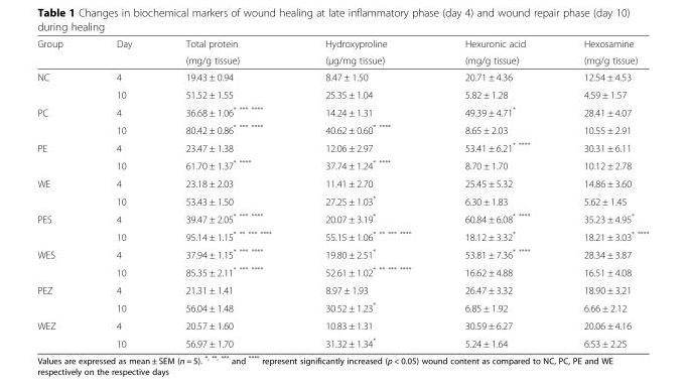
<table><thead><tr><td rowspan="2">Group</td><td rowspan="2">Day</td><td rowspan="2">Total protein (mg/g tissue)</td><td rowspan="2">Hydroxyproline (μg/mg tissue)</td><td rowspan="2">Hexuronic acid (mg/g tissue)</td><td rowspan="2">Hexosamine (mg/g tissue)</td></tr><tr></tr></thead><tbody><tr><td rowspan="2">NC</td><td>4</td><td>19.43 ± 0.94</td><td>8.47 ± 1.50</td><td>20.71 ± 4.36</td><td>12.54 ± 4.53</td></tr><tr><td>10</td><td>51.52 ± 1.55</td><td>25.35 ± 1.04</td><td>5.82 ± 1.28</td><td>4.59 ± 1.57</td></tr><tr><td rowspan="2">PC</td><td>4</td><td>36.68 ± 1.06* *** ****</td><td>14.24 ± 1.31</td><td>49.39 ± 4.71*</td><td>28.41 ± 4.07</td></tr><tr><td>10</td><td>80.42 ± 0.86* *** ****</td><td>40.62 ± 0.60* ****</td><td>8.65 ± 2.03</td><td>10.55 ± 2.91</td></tr><tr><td rowspan="2">PE</td><td>4</td><td>23.47 ± 1.38</td><td>12.06 ± 2.97</td><td>53.41 ± 6.21* ****</td><td>30.31 ± 6.11</td></tr><tr><td>10</td><td>61.70 ± 1.37* ****</td><td>37.74 ± 1.24* ****</td><td>8.70 ± 1.70</td><td>10.12 ± 2.78</td></tr><tr><td rowspan="2">WE</td><td>4</td><td>23.18 ± 2.03</td><td>11.41 ± 2.70</td><td>25.45 ± 5.32</td><td>14.86 ± 3.60</td></tr><tr><td>10</td><td>53.43 ± 1.50</td><td>27.25 ± 1.03*</td><td>6.30 ± 1.83</td><td>5.62 ± 1.45</td></tr><tr><td rowspan="2">PES</td><td>4</td><td>39.47 ± 2.05* *** ****</td><td>20.07 ± 3.19*</td><td>60.84 ± 6.08* ****</td><td>35.23 ± 4.95*</td></tr><tr><td>10</td><td>95.14 ± 1.15* ** *** ****</td><td>55.15 ± 1.06* ** *** ****</td><td>18.12 ± 3.32*</td><td>18.21 ± 3.03* ****</td></tr><tr><td rowspan="2">WES</td><td>4</td><td>37.94 ± 1.15* *** ****</td><td>19.80 ± 2.51*</td><td>53.81 ± 7.36* ****</td><td>28.34 ± 3.87</td></tr><tr><td>10</td><td>85.35 ± 2.11* *** ****</td><td>52.61 ± 1.02* ** *** ****</td><td>16.62 ± 4.88</td><td>16.51 ± 4.08</td></tr><tr><td rowspan="2">PEZ</td><td>4</td><td>21.31 ± 1.41</td><td>8.97 ± 1.93</td><td>26.47 ± 3.32</td><td>18.90 ± 3.21</td></tr><tr><td>10</td><td>56.04 ± 1.48</td><td>30.52 ± 1.23*</td><td>6.85 ± 1.92</td><td>6.66 ± 2.12</td></tr><tr><td rowspan="2">WEZ</td><td>4</td><td>20.57 ± 1.60</td><td>10.83 ± 1.31</td><td>30.59 ± 6.27</td><td>20.06 ± 4.16</td></tr><tr><td>10</td><td>56.97 ± 1.70</td><td>31.32 ± 1.34*</td><td>5.24 ± 1.64</td><td>6.53 ± 2.25</td></tr></tbody></table>